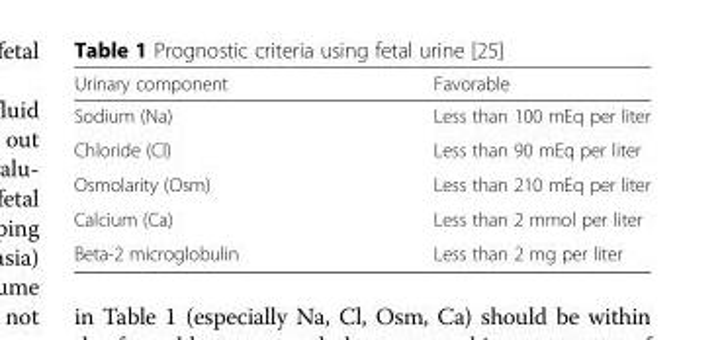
<table><thead><tr><td>Urinary component</td><td>Favorable</td></tr></thead><tbody><tr><td>Sodium (Na)</td><td>Less than 100 mEq per liter</td></tr><tr><td>Chloride (Cl)</td><td>Less than 90 mEq per liter</td></tr><tr><td>Osmolarity (Osm)</td><td>Less than 210 mEq per liter</td></tr><tr><td>Calcium (Ca)</td><td>Less than 2 mmol per liter</td></tr><tr><td>Beta-2 microglobulin</td><td>Less than 2 mg per liter</td></tr></tbody></table>